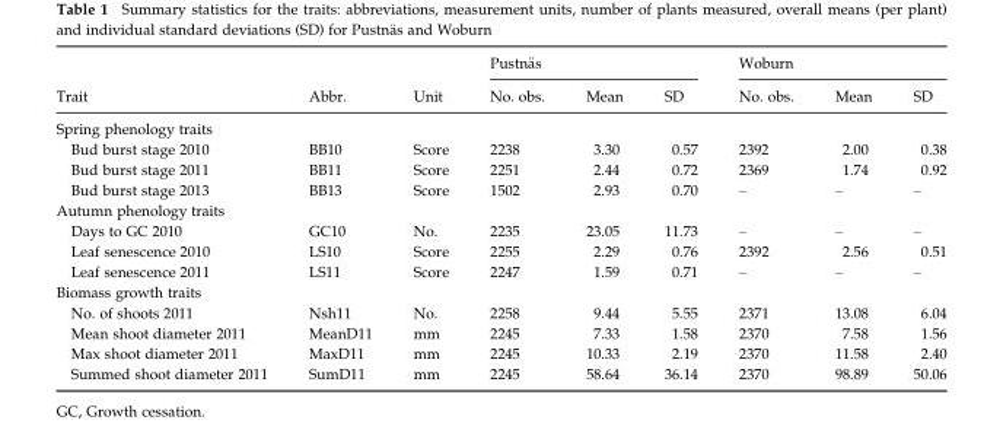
<table><thead><tr><td rowspan="2">Trait</td><td rowspan="2">Abbr.</td><td rowspan="2">Unit</td><td colspan="3">Pustn€as</td><td colspan="3">Woburn</td></tr><tr><td>No. obs.</td><td>Mean</td><td>SD</td><td>No. obs.</td><td>Mean</td><td>SD</td></tr></thead><tbody><tr><td colspan="9">Spring phenology traits</td></tr><tr><td>Bud burst stage 2010</td><td>BB10</td><td>Score</td><td>2238</td><td>3.30</td><td>0.57</td><td>2392</td><td>2.00</td><td>0.38</td></tr><tr><td>Bud burst stage 2011</td><td>BB11</td><td>Score</td><td>2251</td><td>2.44</td><td>0.72</td><td>2369</td><td>1.74</td><td>0.92</td></tr><tr><td>Bud burst stage 2013</td><td>BB13</td><td>Score</td><td>1502</td><td>2.93</td><td>0.70</td><td>–</td><td>–</td><td>–</td></tr><tr><td colspan="9">Autumn phenology traits</td></tr><tr><td>Days to GC 2010</td><td>GC10</td><td>No.</td><td>2235</td><td>23.05</td><td>11.73</td><td>–</td><td>–</td><td>–</td></tr><tr><td>Leaf senescence 2010</td><td>LS10</td><td>Score</td><td>2255</td><td>2.29</td><td>0.76</td><td>2392</td><td>2.56</td><td>0.51</td></tr><tr><td>Leaf senescence 2011</td><td>LS11</td><td>Score</td><td>2247</td><td>1.59</td><td>0.71</td><td>–</td><td>–</td><td>–</td></tr><tr><td colspan="9">Biomass growth traits</td></tr><tr><td>No. of shoots 2011</td><td>Nsh11</td><td>No.</td><td>2258</td><td>9.44</td><td>5.55</td><td>2371</td><td>13.08</td><td>6.04</td></tr><tr><td>Mean shoot diameter 2011</td><td>MeanD11</td><td>mm</td><td>2245</td><td>7.33</td><td>1.58</td><td>2370</td><td>7.58</td><td>1.56</td></tr><tr><td>Max shoot diameter 2011</td><td>MaxD11</td><td>mm</td><td>2245</td><td>10.33</td><td>2.19</td><td>2370</td><td>11.58</td><td>2.40</td></tr><tr><td>Summed shoot diameter 2011</td><td>SumD11</td><td>mm</td><td>2245</td><td>58.64</td><td>36.14</td><td>2370</td><td>98.89</td><td>50.06</td></tr></tbody></table>